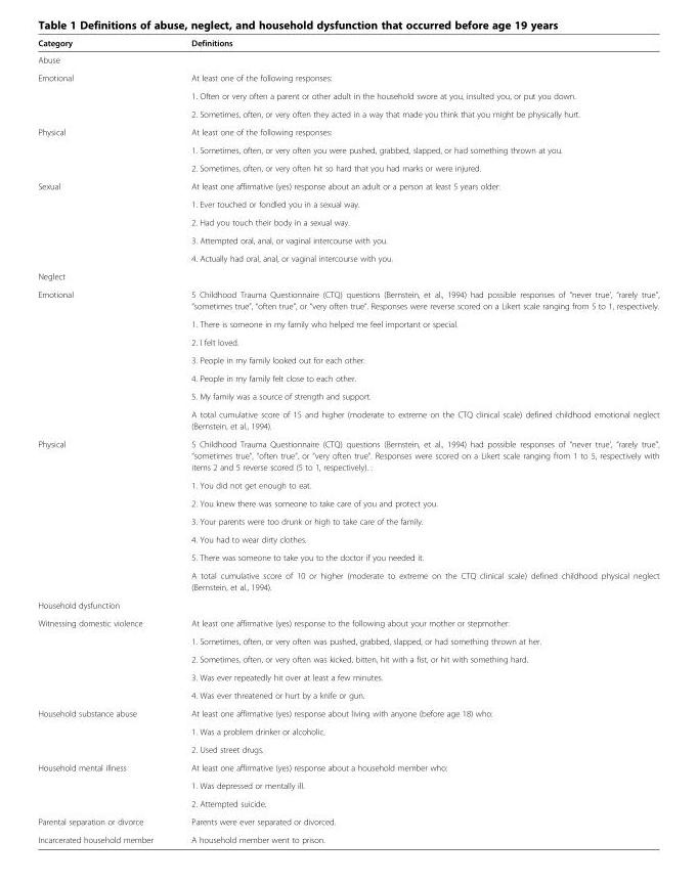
<table><thead><tr><td>Category</td><td>Definitions</td></tr></thead><tbody><tr><td colspan="2">Abuse</td></tr><tr><td rowspan="3">Emotional</td><td>At least one of the following responses:</td></tr><tr><td>1. Often or very often a parent or other adult in the household swore at you, insulted you, or put you down.</td></tr><tr><td>2. Sometimes, often, or very often they acted in a way that made you think that you might be physically hurt.</td></tr><tr><td rowspan="3">Physical</td><td>At least one of the following responses:</td></tr><tr><td>1. Sometimes, often, or very often you were pushed, grabbed, slapped, or had something thrown at you.</td></tr><tr><td>2. Sometimes, often, or very often hit so hard that you had marks or were injured.</td></tr><tr><td rowspan="5">Sexual</td><td>At least one affirmative (yes) response about an adult or a person at least 5 years older:</td></tr><tr><td>1. Ever touched or fondled you in a sexual way.</td></tr><tr><td>2. Had you touch their body in a sexual way.</td></tr><tr><td>3. Attempted oral, anal, or vaginal intercourse with you.</td></tr><tr><td>4. Actually had oral, anal, or vaginal intercourse with you.</td></tr><tr><td colspan="2">Neglect</td></tr><tr><td rowspan="7">Emotional</td><td>5 Childhood Trauma Questionnaire (CTQ) questions (Bernstein, et al., 1994) had possible responses of “never true’, “rarely true”, “sometimes true”, “often true”, or “very often true”. Responses were reverse scored on a Likert scale ranging from 5 to 1, respectively.</td></tr><tr><td>1. There is someone in my family who helped me feel important or special.</td></tr><tr><td>2. I felt loved.</td></tr><tr><td>3. People in my family looked out for each other.</td></tr><tr><td>4. People in my family felt close to each other.</td></tr><tr><td>5. My family was a source of strength and support.</td></tr><tr><td>A total cumulative score of 15 and higher (moderate to extreme on the CTQ clinical scale) defined childhood emotional neglect (Bernstein, et al., 1994).</td></tr><tr><td rowspan="7">Physical</td><td>5 Childhood Trauma Questionnaire (CTQ) questions (Bernstein, et al., 1994) had possible responses of “never true’, “rarely true”, “sometimes true”, “often true”, or “very often true”. Responses were scored on a Likert scale ranging from 1 to 5, respectively with items 2 and 5 reverse scored (5 to 1, respectively). :</td></tr><tr><td>1. You did not get enough to eat.</td></tr><tr><td>2. You knew there was someone to take care of you and protect you.</td></tr><tr><td>3. Your parents were too drunk or high to take care of the family.</td></tr><tr><td>4. You had to wear dirty clothes.</td></tr><tr><td>5. There was someone to take you to the doctor if you needed it.</td></tr><tr><td>A total cumulative score of 10 or higher (moderate to extreme on the CTQ clinical scale) defined childhood physical neglect (Bernstein, et al., 1994).</td></tr><tr><td colspan="2">Household dysfunction</td></tr><tr><td rowspan="5">Witnessing domestic violence</td><td>At least one affirmative (yes) response to the following about your mother or stepmother:</td></tr><tr><td>1. Sometimes, often, or very often was pushed, grabbed, slapped, or had something thrown at her.</td></tr><tr><td>2. Sometimes, often, or very often was kicked, bitten, hit with a fist, or hit with something hard.</td></tr><tr><td>3. Was ever repeatedly hit over at least a few minutes.</td></tr><tr><td>4. Was ever threatened or hurt by a knife or gun.</td></tr><tr><td rowspan="3">Household substance abuse</td><td>At least one affirmative (yes) response about living with anyone (before age 18) who:</td></tr><tr><td>1. Was a problem drinker or alcoholic.</td></tr><tr><td>2. Used street drugs.</td></tr><tr><td rowspan="3">Household mental illness</td><td>At least one affirmative (yes) response about a household member who:</td></tr><tr><td>1. Was depressed or mentally ill.</td></tr><tr><td>2. Attempted suicide.</td></tr><tr><td>Parental separation or divorce</td><td>Parents were ever separated or divorced.</td></tr><tr><td>Incarcerated household member</td><td>A household member went to prison.</td></tr></tbody></table>